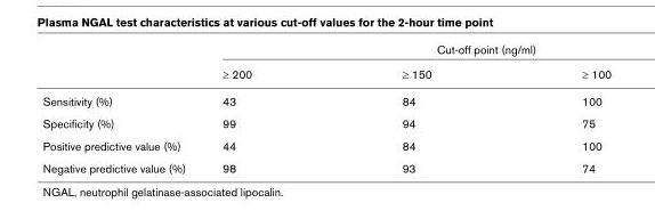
<table><thead><tr><td rowspan="2"></td><td colspan="3">Cut-off point (ng/ml)</td></tr><tr><td>≥ 200</td><td>≥ 150</td><td>≥ 100</td></tr></thead><tbody><tr><td>Sensitivity (%)</td><td>43</td><td>84</td><td>100</td></tr><tr><td>Specificity (%)</td><td>99</td><td>94</td><td>75</td></tr><tr><td>Positive predictive value (%)</td><td>44</td><td>84</td><td>100</td></tr><tr><td>Negative predictive value (%)</td><td>98</td><td>93</td><td>74</td></tr></tbody></table>